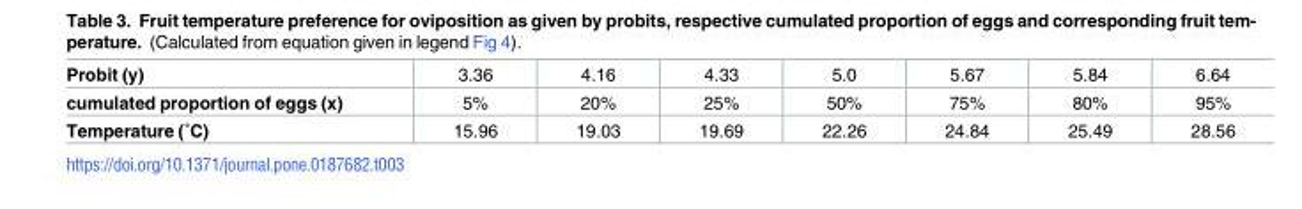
<table><tbody><tr><td>Probit (y)</td><td>3.36</td><td>4.16</td><td>4.33</td><td>5.0</td><td>5.67</td><td>5.84</td><td>6.64</td></tr><tr><td>cumulated proportion of eggs (x)</td><td>5%</td><td>20%</td><td>25%</td><td>50%</td><td>75%</td><td>80%</td><td>95%</td></tr><tr><td>Temperature (˚C)</td><td>15.96</td><td>19.03</td><td>19.69</td><td>22.26</td><td>24.84</td><td>25.49</td><td>28.56</td></tr></tbody></table>